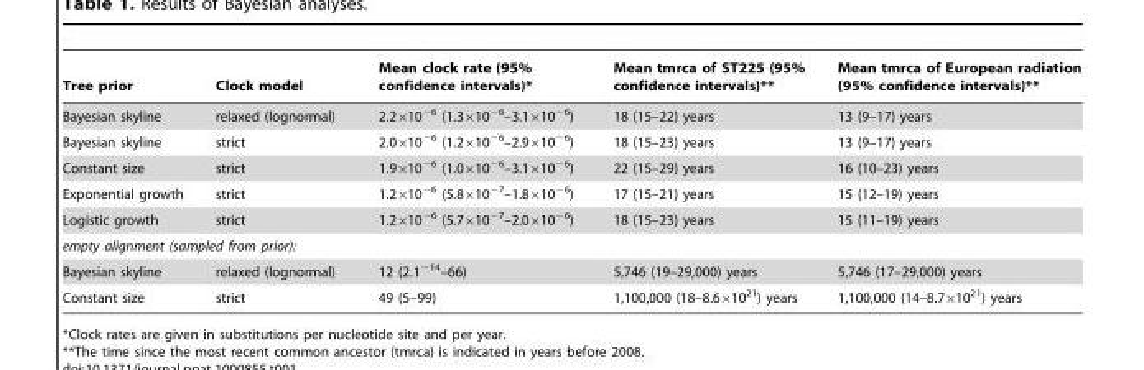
<table><thead><tr><td>Tree prior</td><td>Clock model</td><td>Mean clock rate (95% confidence intervals)*</td><td>Mean tmrca of ST225 (95% confidence intervals)**</td><td>Mean tmrca of European radiation (95% confidence intervals)**</td></tr></thead><tbody><tr><td>Bayesian skyline</td><td>relaxed (lognormal)</td><td>2.2×10<sup>−6</sup> (1.3×10<sup>−6</sup>–3.1×10<sup>−6</sup>)</td><td>18 (15–22) years</td><td>13 (9–17) years</td></tr><tr><td>Bayesian skyline</td><td>strict</td><td>2.0×10<sup>−6</sup> (1.2×10<sup>−6</sup>–2.9×10<sup>−6</sup>)</td><td>18 (15–23) years</td><td>13 (9–17) years</td></tr><tr><td>Constant size</td><td>strict</td><td>1.9×10<sup>−6</sup> (1.0×10<sup>−6</sup>–3.1×10<sup>−6</sup>)</td><td>22 (15–29) years</td><td>16 (10–23) years</td></tr><tr><td>Exponential growth</td><td>strict</td><td>1.2×10<sup>−6</sup> (5.8×10<sup>−7</sup>–1.8×10<sup>−6</sup>)</td><td>17 (15–21) years</td><td>15 (12–19) years</td></tr><tr><td>Logistic growth</td><td>strict</td><td>1.2×10<sup>−6</sup> (5.7×10<sup>−7</sup>–2.0×10<sup>−6</sup>)</td><td>18 (15–23) years</td><td>15 (11–19) years</td></tr><tr><td colspan="5">empty alignment (sampled from prior):</td></tr><tr><td>Bayesian skyline</td><td>relaxed (lognormal)</td><td>12 (2.1<sup>−14</sup>–66)</td><td>5,746 (19–29,000) years</td><td>5,746 (17–29,000) years</td></tr><tr><td>Constant size</td><td>strict</td><td>49 (5–99)</td><td>1,100,000 (18–8.6×10<sup>21</sup>) years</td><td>1,100,000 (14–8.7×10<sup>21</sup>) years</td></tr></tbody></table>